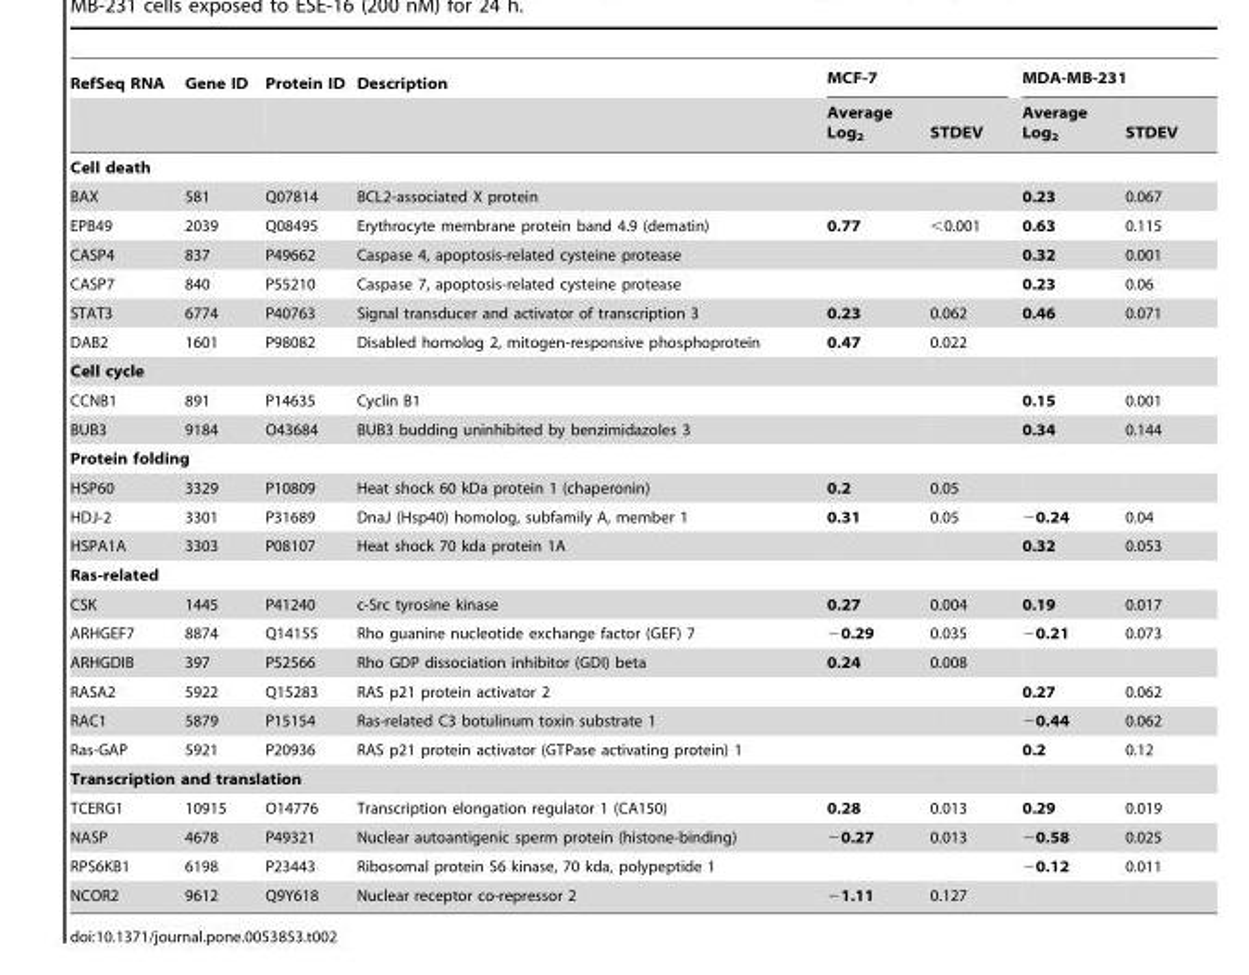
<table><thead><tr><td rowspan="2">RefSeq RNA</td><td rowspan="2">Gene ID</td><td rowspan="2">Protein ID</td><td rowspan="2">Description</td><td colspan="2">MCF-7</td><td colspan="2">MDA-MB-231</td></tr><tr><td>Average Log<sub>2</sub></td><td>STDEV</td><td>Average Log<sub>2</sub></td><td>STDEV</td></tr></thead><tbody><tr><td colspan="8">Cell death</td></tr><tr><td>BAX</td><td>581</td><td>Q07814</td><td>BCL2-associated X protein</td><td></td><td></td><td>0.23</td><td>0.067</td></tr><tr><td>EPB49</td><td>2039</td><td>Q08495</td><td>Erythrocyte membrane protein band 4.9 (dematin)</td><td>0.77</td><td>&lt;0.001</td><td>0.63</td><td>0.115</td></tr><tr><td>CASP4</td><td>837</td><td>P49662</td><td>Caspase 4, apoptosis-related cysteine protease</td><td></td><td></td><td>0.32</td><td>0.001</td></tr><tr><td>CASP7</td><td>840</td><td>P55210</td><td>Caspase 7, apoptosis-related cysteine protease</td><td></td><td></td><td>0.23</td><td>0.06</td></tr><tr><td>STAT3</td><td>6774</td><td>P40763</td><td>Signal transducer and activator of transcription 3</td><td>0.23</td><td>0.062</td><td>0.46</td><td>0.071</td></tr><tr><td>DAB2</td><td>1601</td><td>P98082</td><td>Disabled homolog 2, mitogen-responsive phosphoprotein</td><td>0.47</td><td>0.022</td><td></td><td></td></tr><tr><td colspan="8">Cell cycle</td></tr><tr><td>CCNB1</td><td>891</td><td>P14635</td><td>Cyclin B1</td><td></td><td></td><td>0.15</td><td>0.001</td></tr><tr><td>BUB3</td><td>9184</td><td>O43684</td><td>BUB3 budding uninhibited by benzimidazoles 3</td><td></td><td></td><td>0.34</td><td>0.144</td></tr><tr><td colspan="8">Protein folding</td></tr><tr><td>HSP60</td><td>3329</td><td>P10809</td><td>Heat shock 60 kDa protein 1 (chaperonin)</td><td>0.2</td><td>0.05</td><td></td><td></td></tr><tr><td>HDJ-2</td><td>3301</td><td>P31689</td><td>DnaJ (Hsp40) homolog, subfamily A, member 1</td><td>0.31</td><td>0.05</td><td>−0.24</td><td>0.04</td></tr><tr><td>HSPA1A</td><td>3303</td><td>P08107</td><td>Heat shock 70 kda protein 1A</td><td></td><td></td><td>0.32</td><td>0.053</td></tr><tr><td colspan="8">Ras-related</td></tr><tr><td>CSK</td><td>1445</td><td>P41240</td><td>c-Src tyrosine kinase</td><td>0.27</td><td>0.004</td><td>0.19</td><td>0.017</td></tr><tr><td>ARHGEF7</td><td>8874</td><td>Q14155</td><td>Rho guanine nucleotide exchange factor (GEF) 7</td><td>−0.29</td><td>0.035</td><td>−0.21</td><td>0.073</td></tr><tr><td>ARHGDIB</td><td>397</td><td>P52566</td><td>Rho GDP dissociation inhibitor (GDI) beta</td><td>0.24</td><td>0.008</td><td></td><td></td></tr><tr><td>RASA2</td><td>5922</td><td>Q15283</td><td>RAS p21 protein activator 2</td><td></td><td></td><td>0.27</td><td>0.062</td></tr><tr><td>RAC1</td><td>5879</td><td>P15154</td><td>Ras-related C3 botulinum toxin substrate 1</td><td></td><td></td><td>−0.44</td><td>0.062</td></tr><tr><td>Ras-GAP</td><td>5921</td><td>P20936</td><td>RAS p21 protein activator (GTPase activating protein) 1</td><td></td><td></td><td>0.2</td><td>0.12</td></tr><tr><td colspan="8">Transcription and translation</td></tr><tr><td>TCERG1</td><td>10915</td><td>O14776</td><td>Transcription elongation regulator 1 (CA150)</td><td>0.28</td><td>0.013</td><td>0.29</td><td>0.019</td></tr><tr><td>NASP</td><td>4678</td><td>P49321</td><td>Nuclear autoantigenic sperm protein (histone-binding)</td><td>−0.27</td><td>0.013</td><td>−0.58</td><td>0.025</td></tr><tr><td>RPS6KB1</td><td>6198</td><td>P23443</td><td>Ribosomal protein S6 kinase, 70 kda, polypeptide 1</td><td></td><td></td><td>−0.12</td><td>0.011</td></tr><tr><td>NCOR2</td><td>9612</td><td>Q9Y618</td><td>Nuclear receptor co-repressor 2</td><td>−1.11</td><td>0.127</td><td></td><td></td></tr></tbody></table>